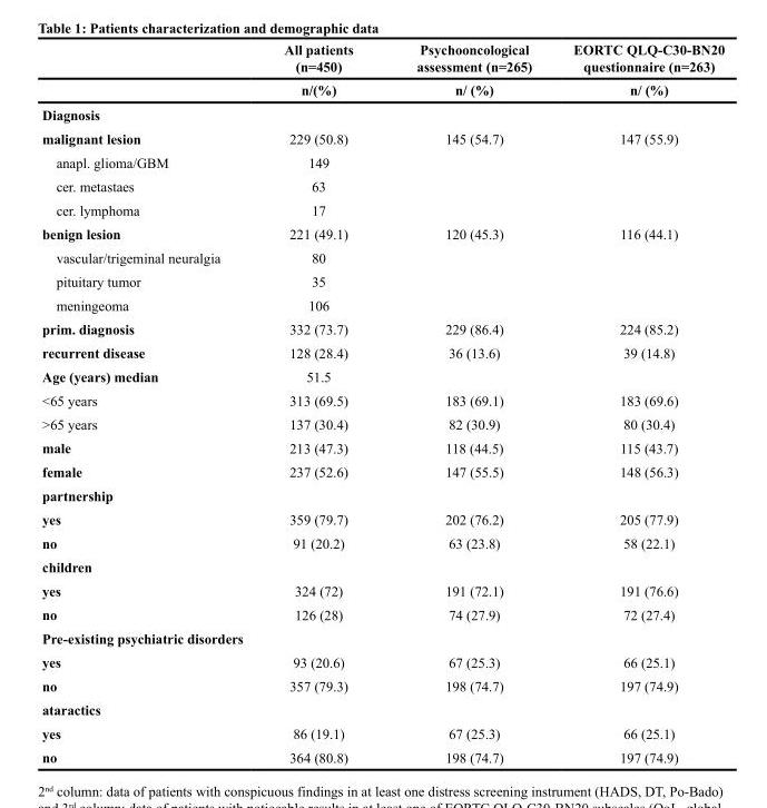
<table><thead><tr><td rowspan="2"></td><td rowspan="2">All patients (n=450) n/(%)</td><td rowspan="2">Psychooncological assessment (n=265) n/ (%)</td><td rowspan="2">EORTC QLQ-C30-BN20 questionnaire (n=263) n/ (%)</td></tr><tr></tr></thead><tbody><tr><td colspan="4">Diagnosis</td></tr><tr><td>malignant lesion</td><td>229 (50.8)</td><td>145 (54.7)</td><td>147 (55.9)</td></tr><tr><td>anapl. glioma/GBM</td><td>149</td><td></td><td></td></tr><tr><td>cer. metastaes</td><td>63</td><td></td><td></td></tr><tr><td>cer. lymphoma</td><td>17</td><td></td><td></td></tr><tr><td>benign lesion</td><td>221 (49.1)</td><td>120 (45.3)</td><td>116 (44.1)</td></tr><tr><td>vascular/trigeminal neuralgia</td><td>80</td><td></td><td></td></tr><tr><td>pituitary tumor</td><td>35</td><td></td><td></td></tr><tr><td>meningeoma</td><td>106</td><td></td><td></td></tr><tr><td>prim. diagnosis</td><td>332 (73.7)</td><td>229 (86.4)</td><td>224 (85.2)</td></tr><tr><td>recurrent disease</td><td>128 (28.4)</td><td>36 (13.6)</td><td>39 (14.8)</td></tr><tr><td>Age (years) median</td><td>51.5</td><td></td><td></td></tr><tr><td>&lt;65 years</td><td>313 (69.5)</td><td>183 (69.1)</td><td>183 (69.6)</td></tr><tr><td>&gt;65 years</td><td>137 (30.4)</td><td>82 (30.9)</td><td>80 (30.4)</td></tr><tr><td>male</td><td>213 (47.3)</td><td>118 (44.5)</td><td>115 (43.7)</td></tr><tr><td>female</td><td>237 (52.6)</td><td>147 (55.5)</td><td>148 (56.3)</td></tr><tr><td colspan="4">partnership</td></tr><tr><td>yes</td><td>359 (79.7)</td><td>202 (76.2)</td><td>205 (77.9)</td></tr><tr><td>no</td><td>91 (20.2)</td><td>63 (23.8)</td><td>58 (22.1)</td></tr><tr><td colspan="4">children</td></tr><tr><td>yes</td><td>324 (72)</td><td>191 (72.1)</td><td>191 (76.6)</td></tr><tr><td>no</td><td>126 (28)</td><td>74 (27.9)</td><td>72 (27.4)</td></tr><tr><td colspan="4">Pre-existing psychiatric disorders</td></tr><tr><td>yes</td><td>93 (20.6)</td><td>67 (25.3)</td><td>66 (25.1)</td></tr><tr><td>no</td><td>357 (79.3)</td><td>198 (74.7)</td><td>197 (74.9)</td></tr><tr><td colspan="4">ataractics</td></tr><tr><td>yes</td><td>86 (19.1)</td><td>67 (25.3)</td><td>66 (25.1)</td></tr><tr><td>no</td><td>364 (80.8)</td><td>198 (74.7)</td><td>197 (74.9)</td></tr></tbody></table>